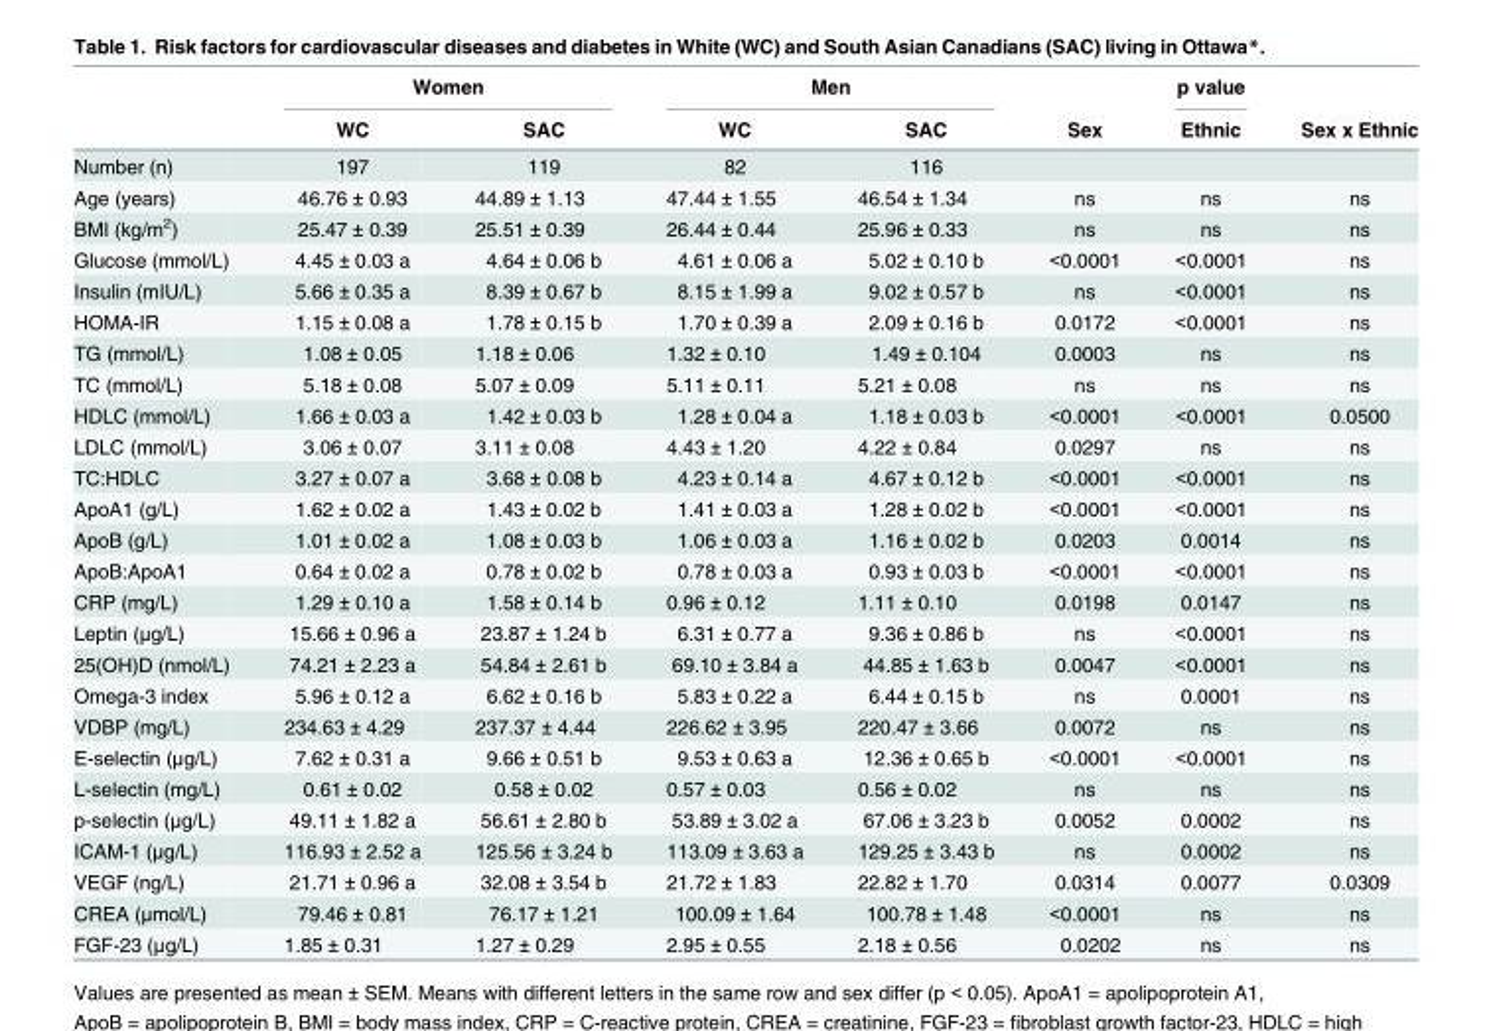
<table><thead><tr><td rowspan="2"></td><td colspan="2">Women</td><td colspan="2">Men</td><td rowspan="2">Sex</td><td rowspan="2">p value Ethnic</td><td rowspan="2">Sex x Ethnic</td></tr><tr><td>WC</td><td>SAC</td><td>WC</td><td>SAC</td></tr></thead><tbody><tr><td>Number (n)</td><td>197</td><td>119</td><td>82</td><td>116</td><td></td><td></td><td></td></tr><tr><td>Age (years)</td><td>46.76 ± 0.93</td><td>44.89 ± 1.13</td><td>47.44 ± 1.55</td><td>46.54 ± 1.34</td><td>ns</td><td>ns</td><td>ns</td></tr><tr><td>BMI (kg/m<sup>2</sup>)</td><td>25.47 ± 0.39</td><td>25.51 ± 0.39</td><td>26.44 ± 0.44</td><td>25.96 ± 0.33</td><td>ns</td><td>ns</td><td>ns</td></tr><tr><td>Glucose (mmol/L)</td><td>4.45 ± 0.03 a</td><td>4.64 ± 0.06 b</td><td>4.61 ± 0.06 a</td><td>5.02 ± 0.10 b</td><td>&lt;0.0001</td><td>&lt;0.0001</td><td>ns</td></tr><tr><td>Insulin (mIU/L)</td><td>5.66 ± 0.35 a</td><td>8.39 ± 0.67 b</td><td>8.15 ± 1.99 a</td><td>9.02 ± 0.57 b</td><td>ns</td><td>&lt;0.0001</td><td>ns</td></tr><tr><td>HOMA-IR</td><td>1.15 ± 0.08 a</td><td>1.78 ± 0.15 b</td><td>1.70 ± 0.39 a</td><td>2.09 ± 0.16 b</td><td>0.0172</td><td>&lt;0.0001</td><td>ns</td></tr><tr><td>TG (mmol/L)</td><td>1.08 ± 0.05</td><td>1.18 ± 0.06</td><td>1.32 ± 0.10</td><td>1.49 ± 0.104</td><td>0.0003</td><td>ns</td><td>ns</td></tr><tr><td>TC (mmol/L)</td><td>5.18 ± 0.08</td><td>5.07 ± 0.09</td><td>5.11 ± 0.11</td><td>5.21 ± 0.08</td><td>ns</td><td>ns</td><td>ns</td></tr><tr><td>HDLC (mmol/L)</td><td>1.66 ± 0.03 a</td><td>1.42 ± 0.03 b</td><td>1.28 ± 0.04 a</td><td>1.18 ± 0.03 b</td><td>&lt;0.0001</td><td>&lt;0.0001</td><td>0.0500</td></tr><tr><td>LDLC (mmol/L)</td><td>3.06 ± 0.07</td><td>3.11 ± 0.08</td><td>4.43 ± 1.20</td><td>4.22 ± 0.84</td><td>0.0297</td><td>ns</td><td>ns</td></tr><tr><td>TC:HDLC</td><td>3.27 ± 0.07 a</td><td>3.68 ± 0.08 b</td><td>4.23 ± 0.14 a</td><td>4.67 ± 0.12 b</td><td>&lt;0.0001</td><td>&lt;0.0001</td><td>ns</td></tr><tr><td>ApoA1 (g/L)</td><td>1.62 ± 0.02 a</td><td>1.43 ± 0.02 b</td><td>1.41 ± 0.03 a</td><td>1.28 ± 0.02 b</td><td>&lt;0.0001</td><td>&lt;0.0001</td><td>ns</td></tr><tr><td>ApoB (g/L)</td><td>1.01 ± 0.02 a</td><td>1.08 ± 0.03 b</td><td>1.06 ± 0.03 a</td><td>1.16 ± 0.02 b</td><td>0.0203</td><td>0.0014</td><td>ns</td></tr><tr><td>ApoB:ApoA1</td><td>0.64 ± 0.02 a</td><td>0.78 ± 0.02 b</td><td>0.78 ± 0.03 a</td><td>0.93 ± 0.03 b</td><td>&lt;0.0001</td><td>&lt;0.0001</td><td>ns</td></tr><tr><td>CRP (mg/L)</td><td>1.29 ± 0.10 a</td><td>1.58 ± 0.14 b</td><td>0.96 ± 0.12</td><td>1.11 ± 0.10</td><td>0.0198</td><td>0.0147</td><td>ns</td></tr><tr><td>Leptin (μg/L)</td><td>15.66 ± 0.96 a</td><td>23.87 ± 1.24 b</td><td>6.31 ± 0.77 a</td><td>9.36 ± 0.86 b</td><td>ns</td><td>&lt;0.0001</td><td>ns</td></tr><tr><td>25(OH)D (nmol/L)</td><td>74.21 ± 2.23 a</td><td>54.84 ± 2.61 b</td><td>69.10 ± 3.84 a</td><td>44.85 ± 1.63 b</td><td>0.0047</td><td>&lt;0.0001</td><td>ns</td></tr><tr><td>Omega-3 index</td><td>5.96 ± 0.12 a</td><td>6.62 ± 0.16 b</td><td>5.83 ± 0.22 a</td><td>6.44 ± 0.15 b</td><td>ns</td><td>0.0001</td><td>ns</td></tr><tr><td>VDBP (mg/L)</td><td>234.63 ± 4.29</td><td>237.37 ± 4.44</td><td>226.62 ± 3.95</td><td>220.47 ± 3.66</td><td>0.0072</td><td>ns</td><td>ns</td></tr><tr><td>E-selectin (μg/L)</td><td>7.62 ± 0.31 a</td><td>9.66 ± 0.51 b</td><td>9.53 ± 0.63 a</td><td>12.36 ± 0.65 b</td><td>&lt;0.0001</td><td>&lt;0.0001</td><td>ns</td></tr><tr><td>L-selectin (mg/L)</td><td>0.61 ± 0.02</td><td>0.58 ± 0.02</td><td>0.57 ± 0.03</td><td>0.56 ± 0.02</td><td>ns</td><td>ns</td><td>ns</td></tr><tr><td>p-selectin (μg/L)</td><td>49.11 ± 1.82 a</td><td>56.61 ± 2.80 b</td><td>53.89 ± 3.02 a</td><td>67.06 ± 3.23 b</td><td>0.0052</td><td>0.0002</td><td>ns</td></tr><tr><td>ICAM-1 (μg/L)</td><td>116.93 ± 2.52 a</td><td>125.56 ± 3.24 b</td><td>113.09 ± 3.63 a</td><td>129.25 ± 3.43 b</td><td>ns</td><td>0.0002</td><td>ns</td></tr><tr><td>VEGF (ng/L)</td><td>21.71 ± 0.96 a</td><td>32.08 ± 3.54 b</td><td>21.72 ± 1.83</td><td>22.82 ± 1.70</td><td>0.0314</td><td>0.0077</td><td>0.0309</td></tr><tr><td>CREA (μmol/L)</td><td>79.46 ± 0.81</td><td>76.17 ± 1.21</td><td>100.09 ± 1.64</td><td>100.78 ± 1.48</td><td>&lt;0.0001</td><td>ns</td><td>ns</td></tr><tr><td>FGF-23 (μg/L)</td><td>1.85 ± 0.31</td><td>1.27 ± 0.29</td><td>2.95 ± 0.55</td><td>2.18 ± 0.56</td><td>0.0202</td><td>ns</td><td>ns</td></tr></tbody></table>